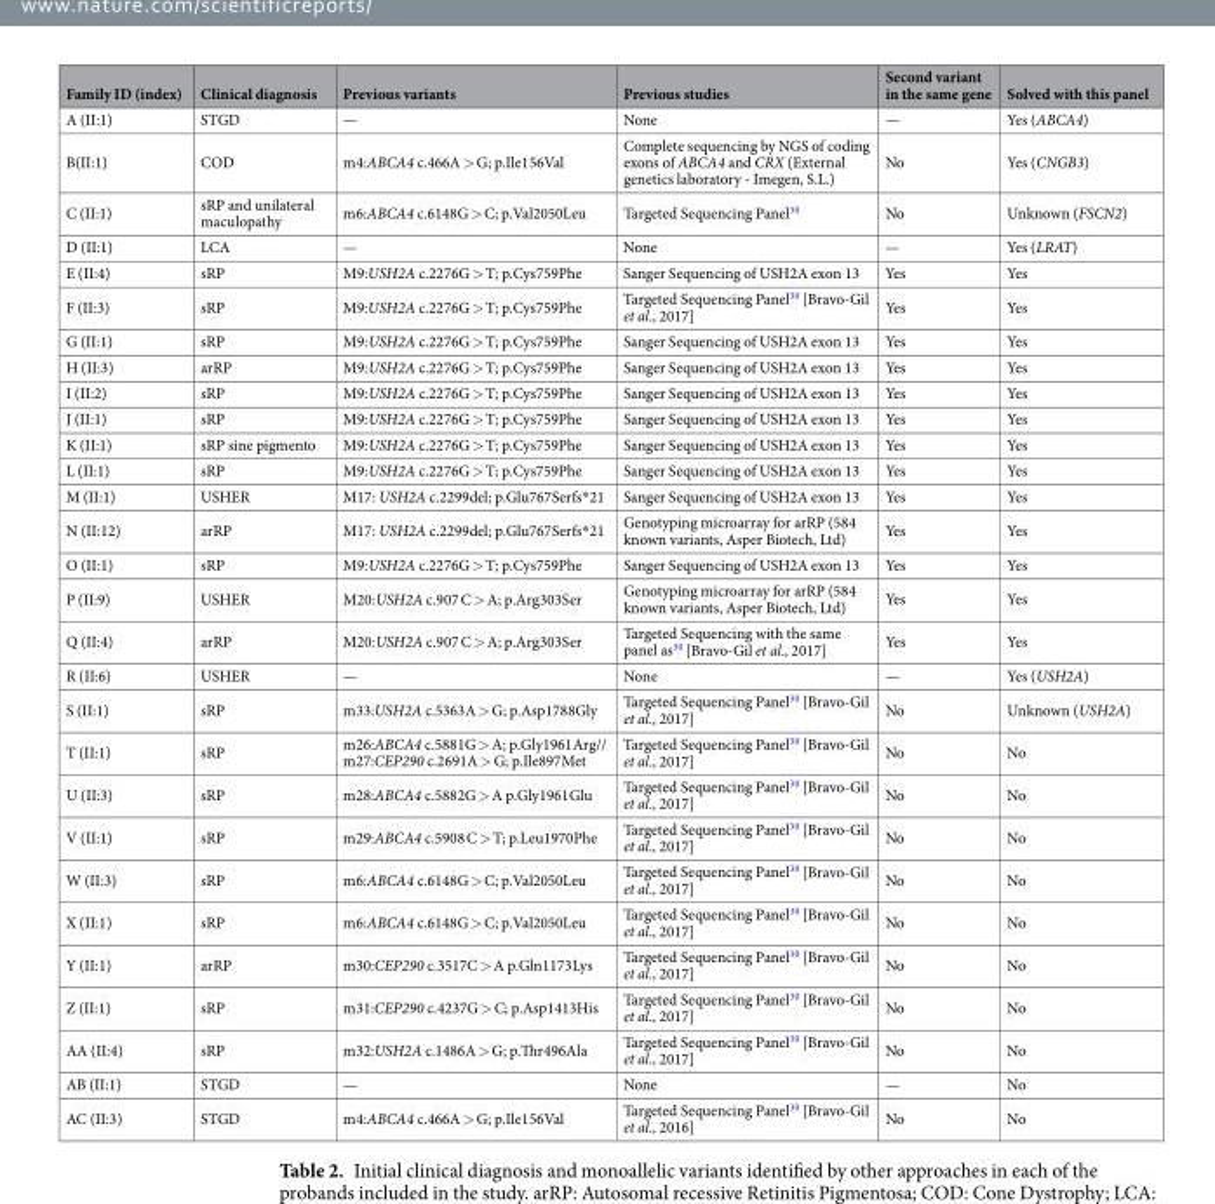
<table><thead><tr><td>Family ID (index)</td><td>Clinical diagnosis</td><td>Previous variants</td><td>Previous studies</td><td>Second variant in the same gene</td><td>Solved with this panel</td></tr></thead><tbody><tr><td>A (II:1)</td><td>STGD</td><td>—</td><td>None</td><td>—</td><td>Yes (ABCA4)</td></tr><tr><td>B(II:1)</td><td>COD</td><td>m4:ABCA4 c.466A &gt; G; p.Ile156Val</td><td>Complete sequencing by NGS of coding exons of ABCA4 and CRX (External genetics laboratory - Imegen, S.L.)</td><td>No</td><td>Yes (CNGB3)</td></tr><tr><td>C (II:1)</td><td>sRP and unilateral maculopathy</td><td>m6:ABCA4 c.6148G &gt; C; p.Val2050Leu</td><td>Targeted Sequencing Panel<sup>30</sup></td><td>No</td><td>Unknown (FSCN2)</td></tr><tr><td>D (II:1)</td><td>LCA</td><td>—</td><td>None</td><td>—</td><td>Yes (LRAT)</td></tr><tr><td>E (II:4)</td><td>sRP</td><td>M9:USH2A c.2276G &gt; T; p.Cys759Phe</td><td>Sanger Sequencing of USH2A exon 13</td><td>Yes</td><td>Yes</td></tr><tr><td>F (II:3)</td><td>sRP</td><td>M9:USH2A c.2276G &gt; T; p.Cys759Phe</td><td>Targeted Sequencing Panel<sup>30</sup> [Bravo-Gil et al., 2017]</td><td>Yes</td><td>Yes</td></tr><tr><td>G (II:1)</td><td>sRP</td><td>M9:USH2A c.2276G &gt; T; p.Cys759Phe</td><td>Sanger Sequencing of USH2A exon 13</td><td>Yes</td><td>Yes</td></tr><tr><td>H (II:3)</td><td>arRP</td><td>M9:USH2A c.2276G &gt; T; p.Cys759Phe</td><td>Sanger Sequencing of USH2A exon 13</td><td>Yes</td><td>Yes</td></tr><tr><td>I (II:2)</td><td>sRP</td><td>M9:USH2A c.2276G &gt; T; p.Cys759Phe</td><td>Sanger Sequencing of USH2A exon 13</td><td>Yes</td><td>Yes</td></tr><tr><td>J (II:1)</td><td>sRP</td><td>M9:USH2A c.2276G &gt; T; p.Cys759Phe</td><td>Sanger Sequencing of USH2A exon 13</td><td>Yes</td><td>Yes</td></tr><tr><td>K (II:1)</td><td>sRP sine pigmento</td><td>M9:USH2A c.2276G &gt; T; p.Cys759Phe</td><td>Sanger Sequencing of USH2A exon 13</td><td>Yes</td><td>Yes</td></tr><tr><td>L (II:1)</td><td>sRP</td><td>M9:USH2A c.2276G &gt; T; p.Cys759Phe</td><td>Sanger Sequencing of USH2A exon 13</td><td>Yes</td><td>Yes</td></tr><tr><td>M (II:1)</td><td>USHER</td><td>M17: USH2A c.2299del; p.Glu767Serfs*21</td><td>Sanger Sequencing of USH2A exon 13</td><td>Yes</td><td>Yes</td></tr><tr><td>N (II:12)</td><td>arRP</td><td>M17: USH2A c.2299del; p.Glu767Serfs*21</td><td>Genotyping microarray for arRP (584 known variants, Asper Biotech, Ltd)</td><td>Yes</td><td>Yes</td></tr><tr><td>O (II:1)</td><td>sRP</td><td>M9:USH2A c.2276G &gt; T; p.Cys759Phe</td><td>Sanger Sequencing of USH2A exon 13</td><td>Yes</td><td>Yes</td></tr><tr><td>P (II:9)</td><td>USHER</td><td>M20:USH2A c.907 C &gt; A; p.Arg303Ser</td><td>Genotyping microarray for arRP (584 known variants, Asper Biotech, Ltd)</td><td>Yes</td><td>Yes</td></tr><tr><td>Q (II:4)</td><td>arRP</td><td>M20:USH2A c.907 C &gt; A; p.Arg303Ser</td><td>Targeted Sequencing with the same panel as<sup>30</sup> [Bravo-Gil et al., 2017]</td><td>Yes</td><td>Yes</td></tr><tr><td>R (II:6)</td><td>USHER</td><td>—</td><td>None</td><td>—</td><td>Yes (USH2A)</td></tr><tr><td>S (II:1)</td><td>sRP</td><td>m33:USH2A c.5363A &gt; G; p.Asp1788Gly</td><td>Targeted Sequencing Panel<sup>30</sup> [Bravo-Gil et al., 2017]</td><td>No</td><td>Unknown (USH2A)</td></tr><tr><td>T (II:1)</td><td>sRP</td><td>m26:ABCA4 c.5881G &gt; A; p.Gly1961Arg// m27:CEP290 c.2691A &gt; G; p.Ile897Met</td><td>Targeted Sequencing Panel<sup>30</sup> [Bravo-Gil et al., 2017]</td><td>No</td><td>No</td></tr><tr><td>U (II:3)</td><td>sRP</td><td>m28:ABCA4 c.5882G &gt; A p.Gly1961Glu</td><td>Targeted Sequencing Panel<sup>30</sup> [Bravo-Gil et al., 2017]</td><td>No</td><td>No</td></tr><tr><td>V (II:1)</td><td>sRP</td><td>m29:ABCA4 c.5908 C &gt; T; p.Leu1970Phe</td><td>Targeted Sequencing Panel<sup>30</sup> [Bravo-Gil et al., 2017]</td><td>No</td><td>No</td></tr><tr><td>W (II:3)</td><td>sRP</td><td>m6:ABCA4 c.6148G &gt; C; p.Val2050Leu</td><td>Targeted Sequencing Panel<sup>30</sup> [Bravo-Gil et al., 2017]</td><td>No</td><td>No</td></tr><tr><td>X (II:1)</td><td>sRP</td><td>m6:ABCA4 c.6148G &gt; C; p.Val2050Leu</td><td>Targeted Sequencing Panel<sup>30</sup> [Bravo-Gil et al., 2017]</td><td>No</td><td>No</td></tr><tr><td>Y (II:1)</td><td>arRP</td><td>m30:CEP290 c.3517C &gt; A p.Gln1173Lys</td><td>Targeted Sequencing Panel<sup>30</sup> [Bravo-Gil et al., 2017]</td><td>No</td><td>No</td></tr><tr><td>Z (II:1)</td><td>sRP</td><td>m31:CEP290 c.4237G &gt; C; p.Asp1413His</td><td>Targeted Sequencing Panel<sup>30</sup> [Bravo-Gil et al., 2017]</td><td>No</td><td>No</td></tr><tr><td>AA (II:4)</td><td>sRP</td><td>m32:USH2A c.1486A &gt; G; p.Thr496Ala</td><td>Targeted Sequencing Panel<sup>30</sup> [Bravo-Gil et al., 2017]</td><td>No</td><td>No</td></tr><tr><td>AB (II:1)</td><td>STGD</td><td>—</td><td>None</td><td>—</td><td>No</td></tr><tr><td>AC (II:3)</td><td>STGD</td><td>m4:ABCA4 c.466A &gt; G; p.Ile156Val</td><td>Targeted Sequencing Panel<sup>30</sup> [Bravo-Gil et al., 2016]</td><td>No</td><td>No</td></tr></tbody></table>